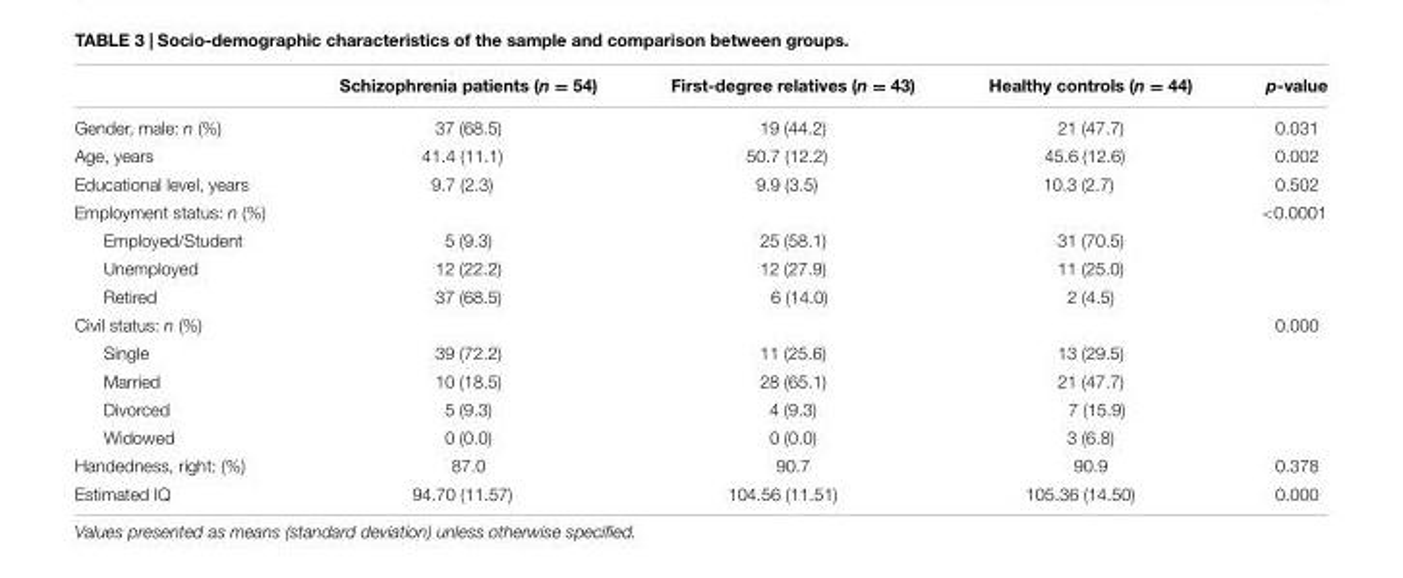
<table><thead><tr><td></td><td>Schizophrenia patients (n = 54)</td><td>First-degree relatives (n = 43)</td><td>Healthy controls (n = 44)</td><td>p-value</td></tr></thead><tbody><tr><td>Gender, male: n (%)</td><td>37 (68.5)</td><td>19 (44.2)</td><td>21 (47.7)</td><td>0.031</td></tr><tr><td>Age, years</td><td>41.4 (11.1)</td><td>50.7 (12.2)</td><td>45.6 (12.6)</td><td>0.002</td></tr><tr><td>Educational level, years</td><td>9.7 (2.3)</td><td>9.9 (3.5)</td><td>10.3 (2.7)</td><td>0.502</td></tr><tr><td>Employment status: n (%)</td><td></td><td></td><td></td><td>&lt;0.0001</td></tr><tr><td>Employed/Student</td><td>5 (9.3)</td><td>25 (58.1)</td><td>31 (70.5)</td><td></td></tr><tr><td>Unemployed</td><td>12 (22.2)</td><td>12 (27.9)</td><td>11 (25.0)</td><td></td></tr><tr><td>Retired</td><td>37 (68.5)</td><td>6 (14.0)</td><td>2 (4.5)</td><td></td></tr><tr><td>Civil status: n (%)</td><td></td><td></td><td></td><td>0.000</td></tr><tr><td>Single</td><td>39 (72.2)</td><td>11 (25.6)</td><td>13 (29.5)</td><td></td></tr><tr><td>Married</td><td>10 (18.5)</td><td>28 (65.1)</td><td>21 (47.7)</td><td></td></tr><tr><td>Divorced</td><td>5 (9.3)</td><td>4 (9.3)</td><td>7 (15.9)</td><td></td></tr><tr><td>Widowed</td><td>0 (0.0)</td><td>0 (0.0)</td><td>3 (6.8)</td><td></td></tr><tr><td>Handedness, right: (%)</td><td>87.0</td><td>90.7</td><td>90.9</td><td>0.378</td></tr><tr><td>Estimated IQ</td><td>94.70 (11.57)</td><td>104.56 (11.51)</td><td>105.36 (14.50)</td><td>0.000</td></tr></tbody></table>